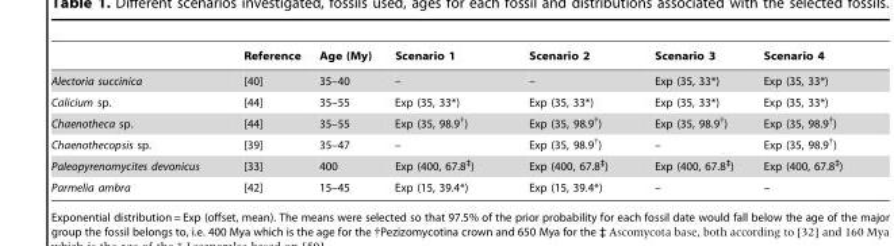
<table><thead><tr><td></td><td>Reference</td><td>Age (My)</td><td>Scenario 1</td><td>Scenario 2</td><td>Scenario 3</td><td>Scenario 4</td></tr></thead><tbody><tr><td>Alectoria succinica</td><td>[40]</td><td>35–40</td><td>–</td><td>–</td><td>Exp (35, 33*)</td><td>Exp (35, 33*)</td></tr><tr><td>Calicium sp.</td><td>[44]</td><td>35–55</td><td>Exp (35, 33*)</td><td>Exp (35, 33*)</td><td>Exp (35, 33*)</td><td>Exp (35, 33*)</td></tr><tr><td>Chaenotheca sp.</td><td>[44]</td><td>35–55</td><td>Exp (35, 98.9<sup>†</sup>)</td><td>Exp (35, 98.9<sup>†</sup>)</td><td>Exp (35, 98.9<sup>†</sup>)</td><td>Exp (35, 98.9<sup>†</sup>)</td></tr><tr><td>Chaenothecopsis sp.</td><td>[39]</td><td>35–47</td><td>–</td><td>Exp (35, 98.9<sup>†</sup>)</td><td>–</td><td>Exp (35, 98.9<sup>†</sup>)</td></tr><tr><td>Paleopyrenomycites devonicus</td><td>[33]</td><td>400</td><td>Exp (400, 67.8<sup>‡</sup>)</td><td>Exp (400, 67.8<sup>‡</sup>)</td><td>Exp (400, 67.8<sup>‡</sup>)</td><td>Exp (400, 67.8<sup>‡</sup>)</td></tr><tr><td>Parmelia ambra</td><td>[42]</td><td>15–45</td><td>Exp (15, 39.4*)</td><td>Exp (15, 39.4*)</td><td>–</td><td>–</td></tr></tbody></table>